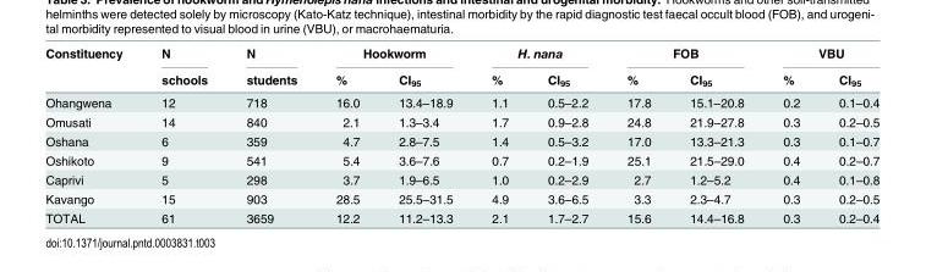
<table><thead><tr><td rowspan="2">Constituency</td><td rowspan="2">N schools</td><td rowspan="2">N students</td><td colspan="2">Hookworm</td><td colspan="2">H. nana</td><td colspan="2">FOB</td><td colspan="2">VBU</td></tr><tr><td>%</td><td>CI<sub>95</sub></td><td>%</td><td>CI<sub>95</sub></td><td>%</td><td>CI<sub>95</sub></td><td>%</td><td>CI<sub>95</sub></td></tr></thead><tbody><tr><td>Ohangwena</td><td>12</td><td>718</td><td>16.0</td><td>13.4–18.9</td><td>1.1</td><td>0.5–2.2</td><td>17.8</td><td>15.1–20.8</td><td>0.2</td><td>0.1–0.4</td></tr><tr><td>Omusati</td><td>14</td><td>840</td><td>2.1</td><td>1.3–3.4</td><td>1.7</td><td>0.9–2.8</td><td>24.8</td><td>21.9–27.8</td><td>0.3</td><td>0.2–0.5</td></tr><tr><td>Oshana</td><td>6</td><td>359</td><td>4.7</td><td>2.8–7.5</td><td>1.4</td><td>0.5–3.2</td><td>17.0</td><td>13.3–21.3</td><td>0.3</td><td>0.1–0.7</td></tr><tr><td>Oshikoto</td><td>9</td><td>541</td><td>5.4</td><td>3.6–7.6</td><td>0.7</td><td>0.2–1.9</td><td>25.1</td><td>21.5–29.0</td><td>0.4</td><td>0.2–0.7</td></tr><tr><td>Caprivi</td><td>5</td><td>298</td><td>3.7</td><td>1.9–6.5</td><td>1.0</td><td>0.2–2.9</td><td>2.7</td><td>1.2–5.2</td><td>0.4</td><td>0.1–0.8</td></tr><tr><td>Kavango</td><td>15</td><td>903</td><td>28.5</td><td>25.5–31.5</td><td>4.9</td><td>3.6–6.5</td><td>3.3</td><td>2.3–4.7</td><td>0.3</td><td>0.2–0.5</td></tr><tr><td>TOTAL</td><td>61</td><td>3659</td><td>12.2</td><td>11.2–13.3</td><td>2.1</td><td>1.7–2.7</td><td>15.6</td><td>14.4–16.8</td><td>0.3</td><td>0.2–0.4</td></tr></tbody></table>